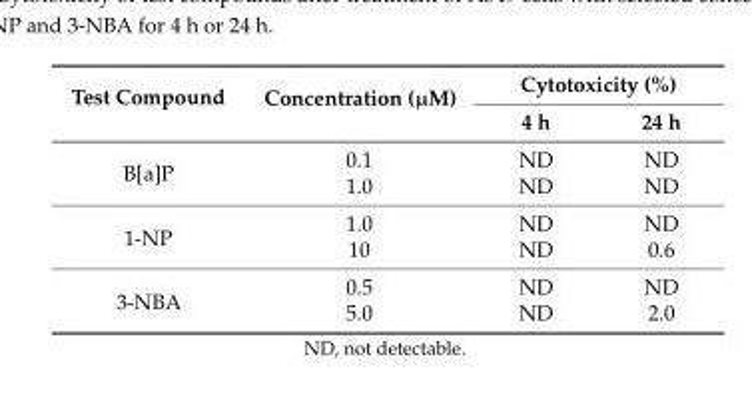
<table><thead><tr><td rowspan="2">Test Compound</td><td rowspan="2">Concentration (µM)</td><td colspan="2">Cytotoxicity (%)</td></tr><tr><td>4 h</td><td>24 h</td></tr></thead><tbody><tr><td rowspan="2">B[a]P</td><td>0.1</td><td>ND</td><td>ND</td></tr><tr><td>1.0</td><td>ND</td><td>ND</td></tr><tr><td rowspan="2">1-NP</td><td>1.0</td><td>ND</td><td>ND</td></tr><tr><td>10</td><td>ND</td><td>0.6</td></tr><tr><td rowspan="2">3-NBA</td><td>0.5</td><td>ND</td><td>ND</td></tr><tr><td>5.0</td><td>ND</td><td>2.0</td></tr></tbody></table>